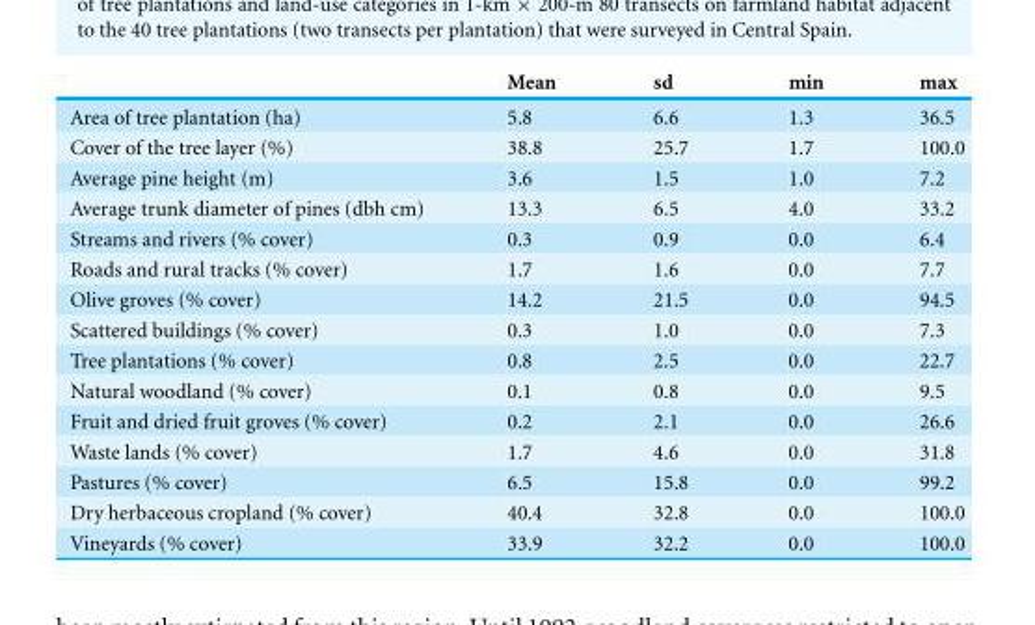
<table><thead><tr><td></td><td>Mean</td><td>sd</td><td>min</td><td>max</td></tr></thead><tbody><tr><td>Area of tree plantation (ha)</td><td>5.8</td><td>6.6</td><td>1.3</td><td>36.5</td></tr><tr><td>Cover of the tree layer (%)</td><td>38.8</td><td>25.7</td><td>1.7</td><td>100.0</td></tr><tr><td>Average pine height (m)</td><td>3.6</td><td>1.5</td><td>1.0</td><td>7.2</td></tr><tr><td>Average trunk diameter of pines (dbh cm)</td><td>13.3</td><td>6.5</td><td>4.0</td><td>33.2</td></tr><tr><td>Streams and rivers (% cover)</td><td>0.3</td><td>0.9</td><td>0.0</td><td>6.4</td></tr><tr><td>Roads and rural tracks (% cover)</td><td>1.7</td><td>1.6</td><td>0.0</td><td>7.7</td></tr><tr><td>Olive groves (% cover)</td><td>14.2</td><td>21.5</td><td>0.0</td><td>94.5</td></tr><tr><td>Scattered buildings (% cover)</td><td>0.3</td><td>1.0</td><td>0.0</td><td>7.3</td></tr><tr><td>Tree plantations (% cover)</td><td>0.8</td><td>2.5</td><td>0.0</td><td>22.7</td></tr><tr><td>Natural woodland (% cover)</td><td>0.1</td><td>0.8</td><td>0.0</td><td>9.5</td></tr><tr><td>Fruit and dried fruit groves (% cover)</td><td>0.2</td><td>2.1</td><td>0.0</td><td>26.6</td></tr><tr><td>Waste lands (% cover)</td><td>1.7</td><td>4.6</td><td>0.0</td><td>31.8</td></tr><tr><td>Pastures (% cover)</td><td>6.5</td><td>15.8</td><td>0.0</td><td>99.2</td></tr><tr><td>Dry herbaceous cropland (% cover)</td><td>40.4</td><td>32.8</td><td>0.0</td><td>100.0</td></tr><tr><td>Vineyards (% cover)</td><td>33.9</td><td>32.2</td><td>0.0</td><td>100.0</td></tr></tbody></table>